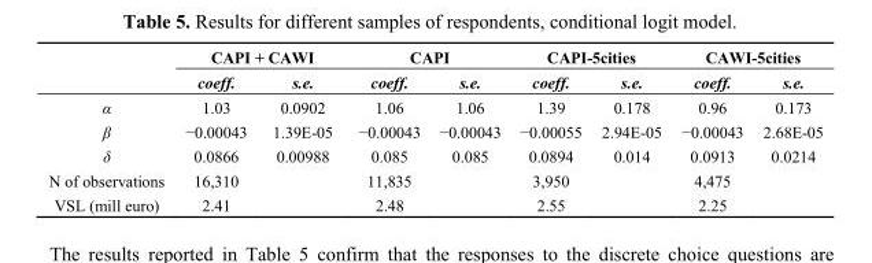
<table><thead><tr><td rowspan="2"></td><td colspan="2">CAPI + CAWI</td><td colspan="2">CAPI</td><td colspan="2">CAPI-5cities</td><td colspan="2">CAWI-5cities</td></tr><tr><td>coeff.</td><td>s.e.</td><td>coeff.</td><td>s.e.</td><td>coeff.</td><td>s.e.</td><td>coeff.</td><td>s.e.</td></tr></thead><tbody><tr><td>α</td><td>1.03</td><td>0.0902</td><td>1.06</td><td>1.06</td><td>1.39</td><td>0.178</td><td>0.96</td><td>0.173</td></tr><tr><td>β</td><td>−0.00043</td><td>1.39E-05</td><td>−0.00043</td><td>−0.00043</td><td>−0.00055</td><td>2.94E-05</td><td>−0.00043</td><td>2.68E-05</td></tr><tr><td>δ</td><td>0.0866</td><td>0.00988</td><td>0.085</td><td>0.085</td><td>0.0894</td><td>0.014</td><td>0.0913</td><td>0.0214</td></tr><tr><td>N of observations</td><td>16,310</td><td></td><td>11,835</td><td></td><td>3,950</td><td></td><td>4,475</td><td></td></tr><tr><td>VSL (mill euro)</td><td>2.41</td><td></td><td>2.48</td><td></td><td>2.55</td><td></td><td>2.25</td><td></td></tr></tbody></table>